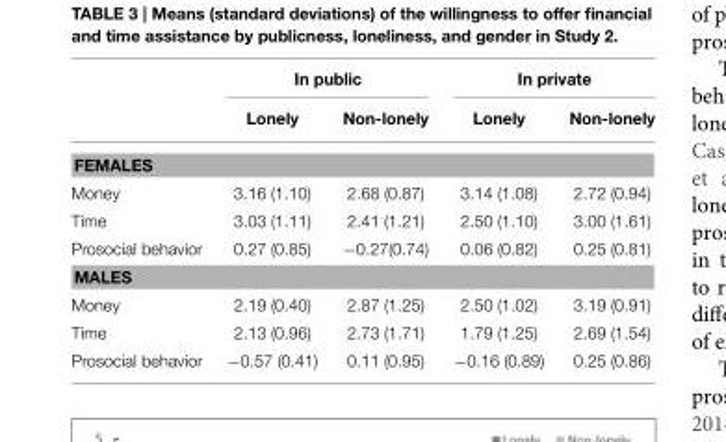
<table><thead><tr><td rowspan="2"></td><td colspan="2">In public</td><td colspan="2">In private</td></tr><tr><td>Lonely</td><td>Non-lonely</td><td>Lonely</td><td>Non-lonely</td></tr></thead><tbody><tr><td colspan="5">FEMALES</td></tr><tr><td>Money</td><td>3.16 (1.10)</td><td>2.68 (0.87)</td><td>3.14 (1.08)</td><td>2.72 (0.94)</td></tr><tr><td>Time</td><td>3.03 (1.11)</td><td>2.41 (1.21)</td><td>2.50 (1.10)</td><td>3.00 (1.61)</td></tr><tr><td>Prosocial behavior</td><td>0.27 (0.85)</td><td>−0.27(0.74)</td><td>0.06 (0.82)</td><td>0.25 (0.81)</td></tr><tr><td colspan="5">MALES</td></tr><tr><td>Money</td><td>2.19 (0.40)</td><td>2.87 (1.25)</td><td>2.50 (1.02)</td><td>3.19 (0.91)</td></tr><tr><td>Time</td><td>2.13 (0.96)</td><td>2.73 (1.71)</td><td>1.79 (1.25)</td><td>2.69 (1.54)</td></tr><tr><td>Prosocial behavior</td><td>−0.57 (0.41)</td><td>0.11 (0.95)</td><td>−0.16 (0.89)</td><td>0.25 (0.86)</td></tr></tbody></table>